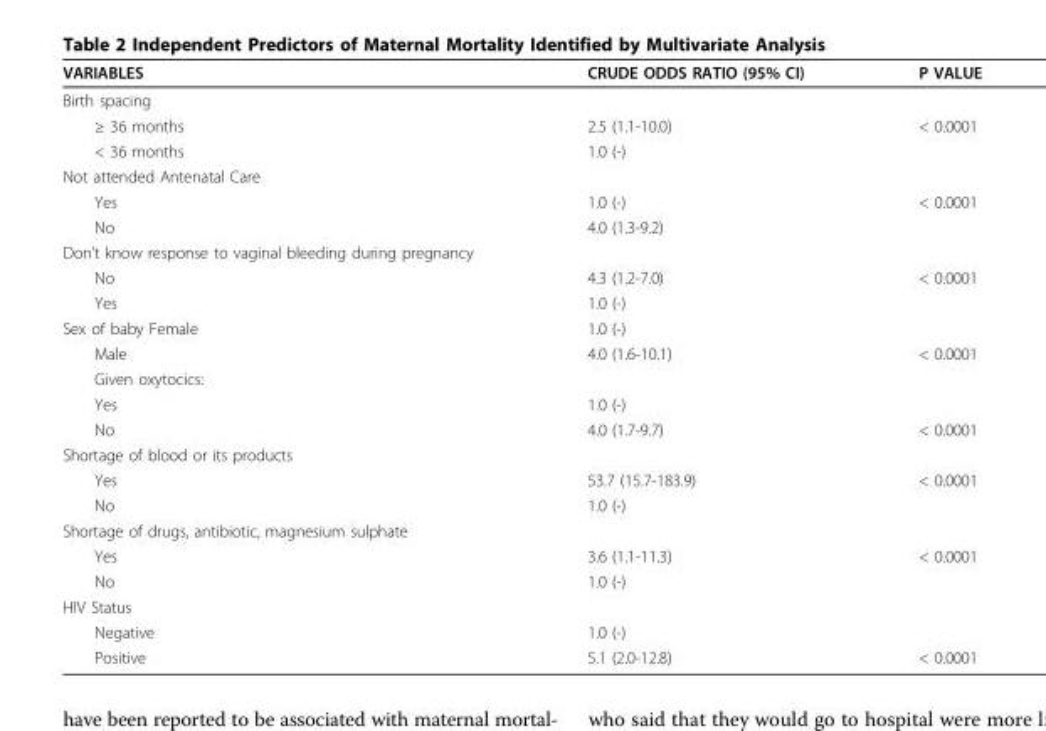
<table><thead><tr><td>VARIABLES</td><td>CRUDE ODDS RATIO (95% CI)</td><td>P VALUE</td></tr></thead><tbody><tr><td colspan="3">Birth spacing</td></tr><tr><td>≥ 36 months</td><td>2.5 (1.1-10.0)</td><td>&lt; 0.0001</td></tr><tr><td>&lt; 36 months</td><td>1.0 (-)</td><td></td></tr><tr><td colspan="3">Not attended Antenatal Care</td></tr><tr><td>Yes</td><td>1.0 (-)</td><td>&lt; 0.0001</td></tr><tr><td>No</td><td>4.0 (1.3-9.2)</td><td></td></tr><tr><td colspan="3">Don’t know response to vaginal bleeding during pregnancy</td></tr><tr><td>No</td><td>4.3 (1.2-7.0)</td><td>&lt; 0.0001</td></tr><tr><td>Yes</td><td>1.0 (-)</td><td></td></tr><tr><td>Sex of baby Female</td><td>1.0 (-)</td><td></td></tr><tr><td>Male</td><td>4.0 (1.6-10.1)</td><td>&lt; 0.0001</td></tr><tr><td colspan="3">Given oxytocics:</td></tr><tr><td>Yes</td><td>1.0 (-)</td><td></td></tr><tr><td>No</td><td>4.0 (1.7-9.7)</td><td>&lt; 0.0001</td></tr><tr><td colspan="3">Shortage of blood or its products</td></tr><tr><td>Yes</td><td>53.7 (15.7-183.9)</td><td>&lt; 0.0001</td></tr><tr><td>No</td><td>1.0 (-)</td><td></td></tr><tr><td colspan="3">Shortage of drugs, antibiotic, magnesium sulphate</td></tr><tr><td>Yes</td><td>3.6 (1.1-11.3)</td><td>&lt; 0.0001</td></tr><tr><td>No</td><td>1.0 (-)</td><td></td></tr><tr><td colspan="3">HIV Status</td></tr><tr><td>Negative</td><td>1.0 (-)</td><td></td></tr><tr><td>Positive</td><td>5.1 (2.0-12.8)</td><td>&lt; 0.0001</td></tr></tbody></table>